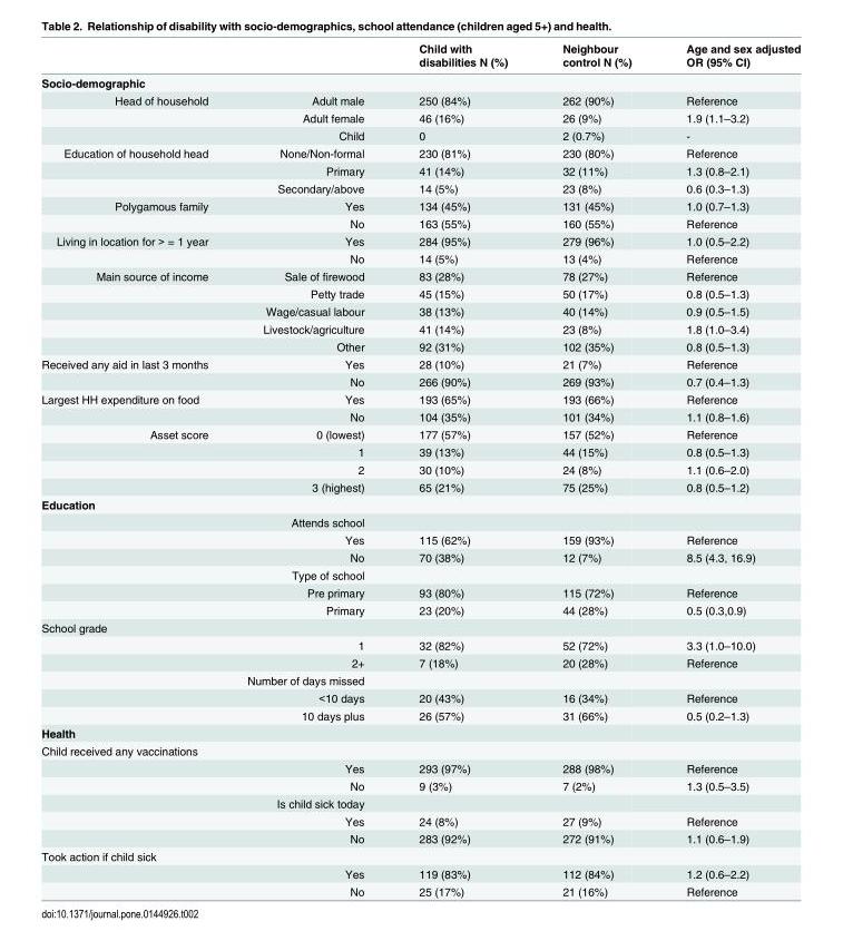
<table><thead><tr><td></td><td></td><td>Child with disabilities N (%)</td><td>Neighbour control N (%)</td><td>Age and sex adjusted OR (95% CI)</td></tr></thead><tbody><tr><td colspan="5">Socio-demographic</td></tr><tr><td rowspan="3">Head of household</td><td>Adult male</td><td>250 (84%)</td><td>262 (90%)</td><td>Reference</td></tr><tr><td>Adult female</td><td>46 (16%)</td><td>26 (9%)</td><td>1.9 (1.1–3.2)</td></tr><tr><td>Child</td><td>0</td><td>2 (0.7%)</td><td>-</td></tr><tr><td rowspan="3">Education of household head</td><td>None/Non-formal</td><td>230 (81%)</td><td>230 (80%)</td><td>Reference</td></tr><tr><td>Primary</td><td>41 (14%)</td><td>32 (11%)</td><td>1.3 (0.8–2.1)</td></tr><tr><td>Secondary/above</td><td>14 (5%)</td><td>23 (8%)</td><td>0.6 (0.3–1.3)</td></tr><tr><td rowspan="2">Polygamous family</td><td>Yes</td><td>134 (45%)</td><td>131 (45%)</td><td>1.0 (0.7–1.3)</td></tr><tr><td>No</td><td>163 (55%)</td><td>160 (55%)</td><td>Reference</td></tr><tr><td rowspan="2">Living in location for &gt; = 1 year</td><td>Yes</td><td>284 (95%)</td><td>279 (96%)</td><td>1.0 (0.5–2.2)</td></tr><tr><td>No</td><td>14 (5%)</td><td>13 (4%)</td><td>Reference</td></tr><tr><td rowspan="5">Main source of income</td><td>Sale of firewood</td><td>83 (28%)</td><td>78 (27%)</td><td>Reference</td></tr><tr><td>Petty trade</td><td>45 (15%)</td><td>50 (17%)</td><td>0.8 (0.5–1.3)</td></tr><tr><td>Wage/casual labour</td><td>38 (13%)</td><td>40 (14%)</td><td>0.9 (0.5–1.5)</td></tr><tr><td>Livestock/agriculture</td><td>41 (14%)</td><td>23 (8%)</td><td>1.8 (1.0–3.4)</td></tr><tr><td>Other</td><td>92 (31%)</td><td>102 (35%)</td><td>0.8 (0.5–1.3)</td></tr><tr><td rowspan="2">Received any aid in last 3 months</td><td>Yes</td><td>28 (10%)</td><td>21 (7%)</td><td>Reference</td></tr><tr><td>No</td><td>266 (90%)</td><td>269 (93%)</td><td>0.7 (0.4–1.3)</td></tr><tr><td rowspan="2">Largest HH expenditure on food</td><td>Yes</td><td>193 (65%)</td><td>193 (66%)</td><td>Reference</td></tr><tr><td>No</td><td>104 (35%)</td><td>101 (34%)</td><td>1.1 (0.8–1.6)</td></tr><tr><td rowspan="4">Asset score</td><td>0 (lowest)</td><td>177 (57%)</td><td>157 (52%)</td><td>Reference</td></tr><tr><td>1</td><td>39 (13%)</td><td>44 (15%)</td><td>0.8 (0.5–1.3)</td></tr><tr><td>2</td><td>30 (10%)</td><td>24 (8%)</td><td>1.1 (0.6–2.0)</td></tr><tr><td>3 (highest)</td><td>65 (21%)</td><td>75 (25%)</td><td>0.8 (0.5–1.2)</td></tr><tr><td colspan="5">Education</td></tr><tr><td colspan="5">Attends school</td></tr><tr><td colspan="2">Yes</td><td>115 (62%)</td><td>159 (93%)</td><td>Reference</td></tr><tr><td colspan="2">No</td><td>70 (38%)</td><td>12 (7%)</td><td>8.5 (4.3, 16.9)</td></tr><tr><td colspan="5">Type of school</td></tr><tr><td colspan="2">Pre primary</td><td>93 (80%)</td><td>115 (72%)</td><td>Reference</td></tr><tr><td colspan="2">Primary</td><td>23 (20%)</td><td>44 (28%)</td><td>0.5 (0.3,0.9)</td></tr><tr><td colspan="5">School grade</td></tr><tr><td colspan="2">1</td><td>32 (82%)</td><td>52 (72%)</td><td>3.3 (1.0–10.0)</td></tr><tr><td colspan="2">2+</td><td>7 (18%)</td><td>20 (28%)</td><td>Reference</td></tr><tr><td colspan="5">Number of days missed</td></tr><tr><td colspan="2">&lt;10 days</td><td>20 (43%)</td><td>16 (34%)</td><td>Reference</td></tr><tr><td colspan="2">10 days plus</td><td>26 (57%)</td><td>31 (66%)</td><td>0.5 (0.2–1.3)</td></tr><tr><td colspan="5">Health</td></tr><tr><td colspan="5">Child received any vaccinations</td></tr><tr><td colspan="2">Yes</td><td>293 (97%)</td><td>288 (98%)</td><td>Reference</td></tr><tr><td colspan="2">No</td><td>9 (3%)</td><td>7 (2%)</td><td>1.3 (0.5–3.5)</td></tr><tr><td colspan="5">Is child sick today</td></tr><tr><td colspan="2">Yes</td><td>24 (8%)</td><td>27 (9%)</td><td>Reference</td></tr><tr><td colspan="2">No</td><td>283 (92%)</td><td>272 (91%)</td><td>1.1 (0.6–1.9)</td></tr><tr><td colspan="5">Took action if child sick</td></tr><tr><td colspan="2">Yes</td><td>119 (83%)</td><td>112 (84%)</td><td>1.2 (0.6–2.2)</td></tr><tr><td colspan="2">No</td><td>25 (17%)</td><td>21 (16%)</td><td>Reference</td></tr></tbody></table>